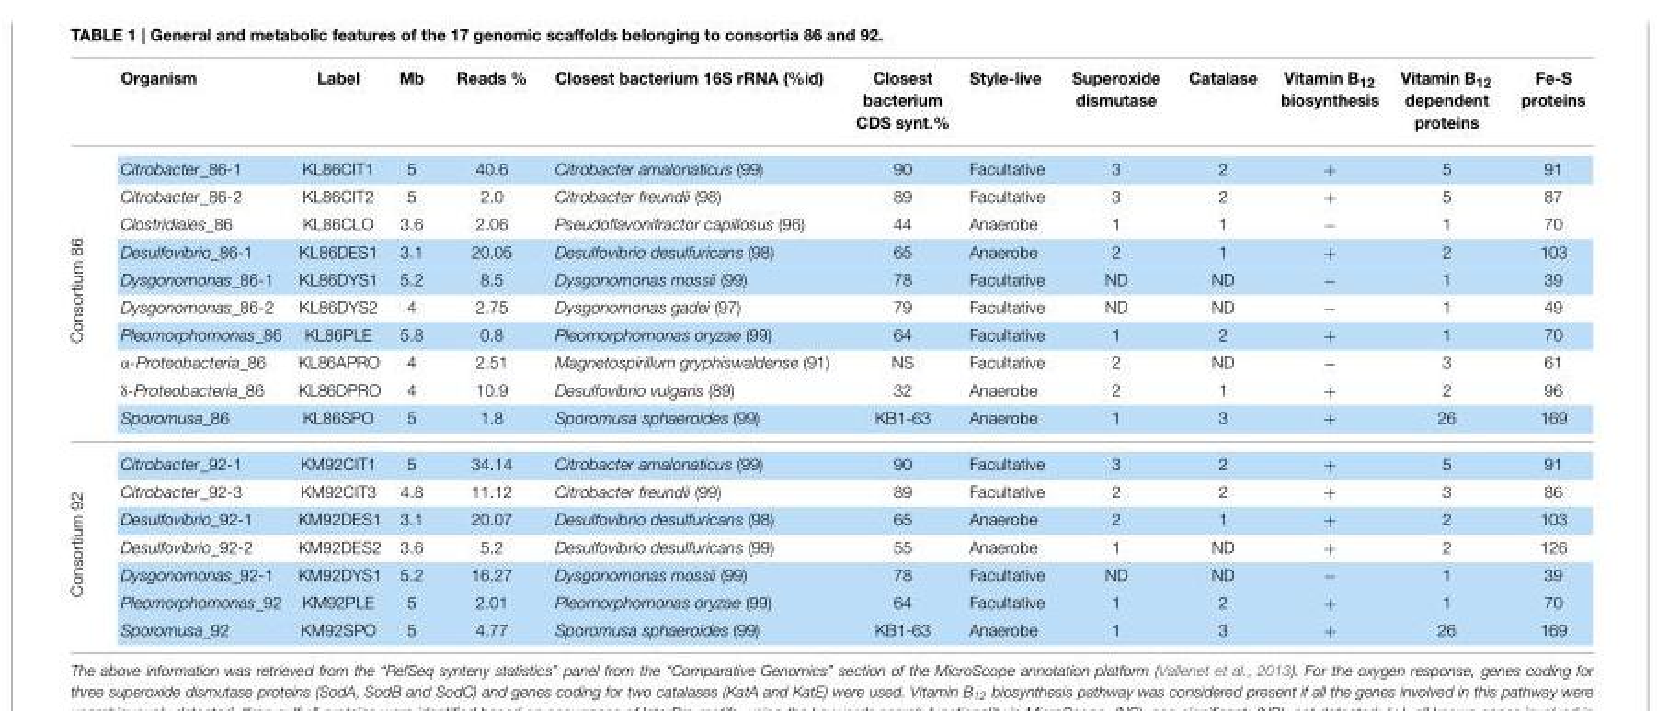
<table><thead><tr><td></td><td>Organism</td><td>Label</td><td>Mb</td><td>Reads %</td><td>Closest bacterium 16S rRNA (%id)</td><td>Closest bacterium CDS synt.%</td><td>Style-live</td><td>Superoxide dismutase</td><td>Catalase</td><td>Vitamin B<sub>12</sub> biosynthesis</td><td>Vitamin B<sub>12</sub> dependent proteins</td><td>Fe-S proteins</td></tr></thead><tbody><tr><td rowspan="10">Consortium 86</td><td>Citrobacter_86-1</td><td>KL86CIT1</td><td>5</td><td>40.6</td><td>Citrobacter amalonaticus (99)</td><td>90</td><td>Facultative</td><td>3</td><td>2</td><td>+</td><td>5</td><td>91</td></tr><tr><td>Citrobacter_86-2</td><td>KL86CIT2</td><td>5</td><td>2.0</td><td>Citrobacter freundii (98)</td><td>89</td><td>Facultative</td><td>3</td><td>2</td><td>+</td><td>5</td><td>87</td></tr><tr><td>Clostridiales_86</td><td>KL86CLO</td><td>3.6</td><td>2.06</td><td>Pseudoflavonifractor capillosus (96)</td><td>44</td><td>Anaerobe</td><td>1</td><td>1</td><td>−</td><td>1</td><td>70</td></tr><tr><td>Desulfovibrio_86-1</td><td>KL86DES1</td><td>3.1</td><td>20.05</td><td>Desulfovibrio desulfuricans (98)</td><td>65</td><td>Anaerobe</td><td>2</td><td>1</td><td>+</td><td>2</td><td>103</td></tr><tr><td>Dysgonomonas_86-1</td><td>KL86DYS1</td><td>5.2</td><td>8.5</td><td>Dysgonomonas mossii (99)</td><td>78</td><td>Facultative</td><td>ND</td><td>ND</td><td>−</td><td>1</td><td>39</td></tr><tr><td>Dysgonomonas_86-2</td><td>KL86DYS2</td><td>4</td><td>2.75</td><td>Dysgonomonas gadei (97)</td><td>79</td><td>Facultative</td><td>ND</td><td>ND</td><td>−</td><td>1</td><td>49</td></tr><tr><td>Pleomorphomonas_86</td><td>KL86PLE</td><td>5.8</td><td>0.8</td><td>Pleomorphomonas oryzae (99)</td><td>64</td><td>Facultative</td><td>1</td><td>2</td><td>+</td><td>1</td><td>70</td></tr><tr><td>α-Proteobacteria_86</td><td>KL86APRO</td><td>4</td><td>2.51</td><td>Magnetospirillum gryphiswaldense (91)</td><td>NS</td><td>Facultative</td><td>2</td><td>ND</td><td>−</td><td>3</td><td>61</td></tr><tr><td>δ-Proteobacteria_86</td><td>KL86DPRO</td><td>4</td><td>10.9</td><td>Desulfovibrio vulgaris (89)</td><td>32</td><td>Anaerobe</td><td>2</td><td>1</td><td>+</td><td>2</td><td>96</td></tr><tr><td>Sporomusa_86</td><td>KL86SPO</td><td>5</td><td>1.8</td><td>Sporomusa sphaeroides (99)</td><td>KB1-63</td><td>Anaerobe</td><td>1</td><td>3</td><td>+</td><td>26</td><td>169</td></tr><tr><td rowspan="7">Consortium 92</td><td>Citrobacter_92-1</td><td>KM92CIT1</td><td>5</td><td>34.14</td><td>Citrobacter amalonaticus (99)</td><td>90</td><td>Facultative</td><td>3</td><td>2</td><td>+</td><td>5</td><td>91</td></tr><tr><td>Citrobacter_92-3</td><td>KM92CIT3</td><td>4.8</td><td>11.12</td><td>Citrobacter freundii (99)</td><td>89</td><td>Facultative</td><td>2</td><td>2</td><td>+</td><td>3</td><td>86</td></tr><tr><td>Desulfovibrio_92-1</td><td>KM92DES1</td><td>3.1</td><td>20.07</td><td>Desulfovibrio desulfuricans (98)</td><td>65</td><td>Anaerobe</td><td>2</td><td>1</td><td>+</td><td>2</td><td>103</td></tr><tr><td>Desulfovibrio_92-2</td><td>KM92DES2</td><td>3.6</td><td>5.2</td><td>Desulfovibrio desulfuricans (99)</td><td>55</td><td>Anaerobe</td><td>1</td><td>ND</td><td>+</td><td>2</td><td>126</td></tr><tr><td>Dysgonomonas_92-1</td><td>KM92DYS1</td><td>5.2</td><td>16.27</td><td>Dysgonomonas mossii (99)</td><td>78</td><td>Facultative</td><td>ND</td><td>ND</td><td>−</td><td>1</td><td>39</td></tr><tr><td>Pleomorphomonas_92</td><td>KM92PLE</td><td>5</td><td>2.01</td><td>Pleomorphomonas oryzae (99)</td><td>64</td><td>Facultative</td><td>1</td><td>2</td><td>+</td><td>1</td><td>70</td></tr><tr><td>Sporomusa_92</td><td>KM92SPO</td><td>5</td><td>4.77</td><td>Sporomusa sphaeroides (99)</td><td>KB1-63</td><td>Anaerobe</td><td>1</td><td>3</td><td>+</td><td>26</td><td>169</td></tr></tbody></table>